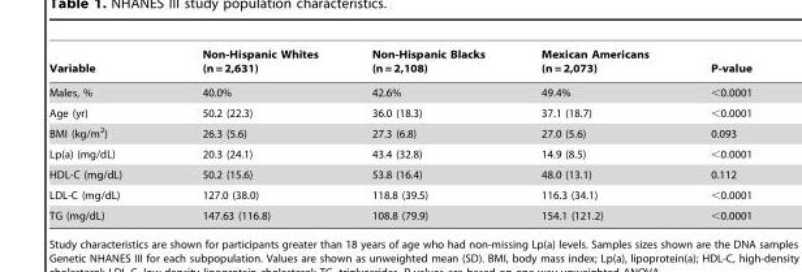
<table><thead><tr><td>Variable</td><td>Non-Hispanic Whites (n = 2,631)</td><td>Non-Hispanic Blacks (n = 2,108)</td><td>Mexican Americans (n = 2,073)</td><td>P-value</td></tr></thead><tbody><tr><td>Males, %</td><td>40.0%</td><td>42.6%</td><td>49.4%</td><td>&lt;0.0001</td></tr><tr><td>Age (yr)</td><td>50.2 (22.3)</td><td>36.0 (18.3)</td><td>37.1 (18.7)</td><td>&lt;0.0001</td></tr><tr><td>BMI (kg/m<sup>2</sup>)</td><td>26.3 (5.6)</td><td>27.3 (6.8)</td><td>27.0 (5.6)</td><td>0.093</td></tr><tr><td>Lp(a) (mg/dL)</td><td>20.3 (24.1)</td><td>43.4 (32.8)</td><td>14.9 (8.5)</td><td>&lt;0.0001</td></tr><tr><td>HDL-C (mg/dL)</td><td>50.2 (15.6)</td><td>53.8 (16.4)</td><td>48.0 (13.1)</td><td>0.112</td></tr><tr><td>LDL-C (mg/dL)</td><td>127.0 (38.0)</td><td>118.8 (39.5)</td><td>116.3 (34.1)</td><td>&lt;0.0001</td></tr><tr><td>TG (mg/dL)</td><td>147.63 (116.8)</td><td>108.8 (79.9)</td><td>154.1 (121.2)</td><td>&lt;0.0001</td></tr></tbody></table>